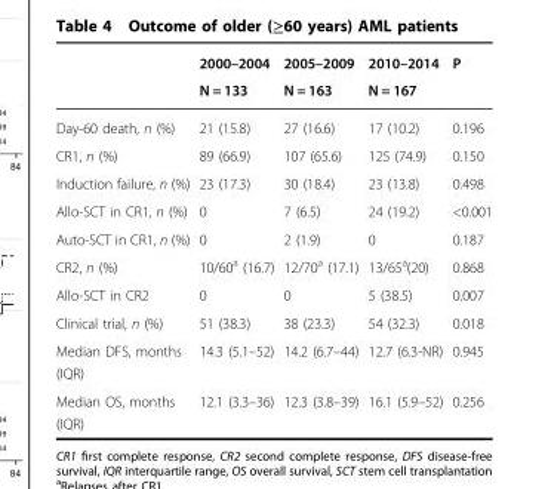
<table><thead><tr><td rowspan="2"></td><td rowspan="2">2000–2004 N = 133</td><td rowspan="2">2005–2009 N = 163</td><td rowspan="2">2010–2014 N = 167</td><td rowspan="2">P</td></tr><tr></tr></thead><tbody><tr><td>Day-60 death, n (%)</td><td>21 (15.8)</td><td>27 (16.6)</td><td>17 (10.2)</td><td>0.196</td></tr><tr><td>CR1, n (%)</td><td>89 (66.9)</td><td>107 (65.6)</td><td>125 (74.9)</td><td>0.150</td></tr><tr><td>Induction failure, n (%)</td><td>23 (17.3)</td><td>30 (18.4)</td><td>23 (13.8)</td><td>0.498</td></tr><tr><td>Allo-SCT in CR1, n (%)</td><td>0</td><td>7 (6.5)</td><td>24 (19.2)</td><td>&lt;0.001</td></tr><tr><td>Auto-SCT in CR1, n (%)</td><td>0</td><td>2 (1.9)</td><td>0</td><td>0.187</td></tr><tr><td>CR2, n (%)</td><td>10/60<sup>a</sup> (16.7)</td><td>12/70<sup>a</sup> (17.1)</td><td>13/65<sup>a</sup>(20)</td><td>0.868</td></tr><tr><td>Allo-SCT in CR2</td><td>0</td><td>0</td><td>5 (38.5)</td><td>0.007</td></tr><tr><td>Clinical trial, n (%)</td><td>51 (38.3)</td><td>38 (23.3)</td><td>54 (32.3)</td><td>0.018</td></tr><tr><td>Median DFS, months (IQR)</td><td>14.3 (5.1–52)</td><td>14.2 (6.7–44)</td><td>12.7 (6.3-NR)</td><td>0.945</td></tr><tr><td>Median OS, months (IQR)</td><td>12.1 (3.3–36)</td><td>12.3 (3.8–39)</td><td>16.1 (5.9–52)</td><td>0.256</td></tr></tbody></table>